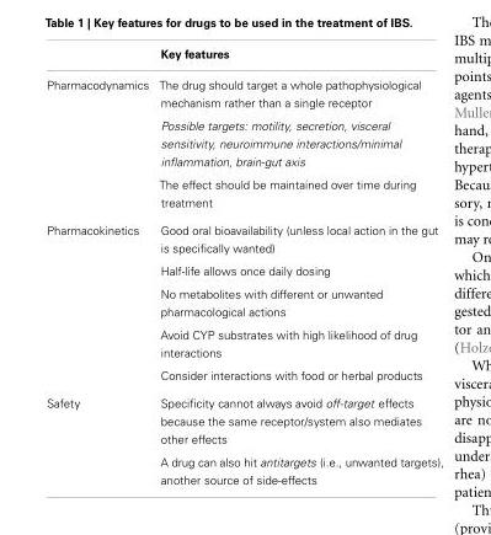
<table><thead><tr><td></td><td>Key features</td></tr></thead><tbody><tr><td rowspan="3">Pharmacodynamics</td><td>The drug should target a whole pathophysiological mechanism rather than a single receptor</td></tr><tr><td>Possible targets: motility, secretion, visceral sensitivity, neuroimmune interactions/minimal inflammation, brain-gut axis</td></tr><tr><td>The effect should be maintained over time during treatment</td></tr><tr><td rowspan="5">Pharmacokinetics</td><td>Good oral bioavailability (unless local action in the gut is specifically wanted)</td></tr><tr><td>Half-life allows once daily dosing</td></tr><tr><td>No metabolites with different or unwanted pharmacological actions</td></tr><tr><td>Avoid CYP substrates with high likelihood of drug interactions</td></tr><tr><td>Consider interactions with food or herbal products</td></tr><tr><td rowspan="2">Safety</td><td>Specificity cannot always avoid off-target effects because the same receptor/system also mediates other effects</td></tr><tr><td>A drug can also hit antitargets (i.e., unwanted targets), another source of side-effects</td></tr></tbody></table>